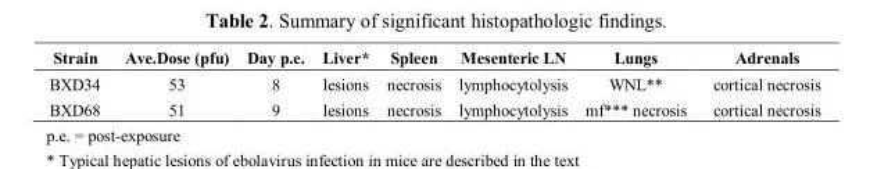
<table><thead><tr><td>Strain</td><td>Ave.Dose (pfu)</td><td>Day p.e.</td><td>Liver*</td><td>Spleen</td><td>Mesenteric LN</td><td>Lungs</td><td>Adrenals</td></tr></thead><tbody><tr><td>BXD34</td><td>53</td><td>8</td><td>lesions</td><td>necrosis</td><td>lymphocytolysis</td><td>WNL**</td><td>cortical necrosis</td></tr><tr><td>BXD68</td><td>51</td><td>9</td><td>lesions</td><td>necrosis</td><td>lymphocytolysis</td><td>mf*** necrosis</td><td>cortical necrosis</td></tr></tbody></table>